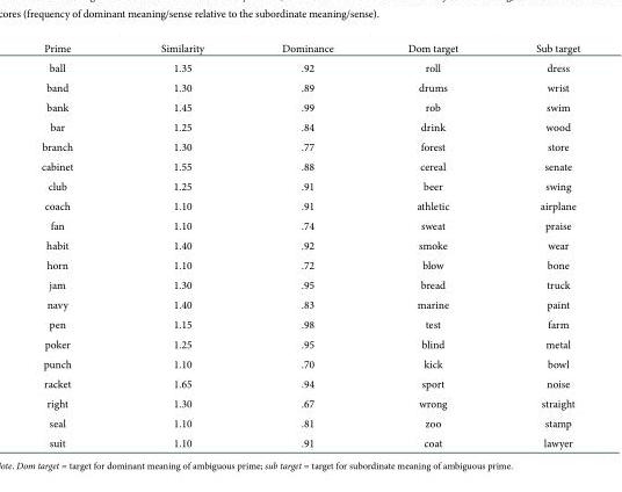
<table><thead><tr><td>Prime</td><td>Similarity</td><td>Dominance</td><td>Dom target</td><td>Sub target</td></tr></thead><tbody><tr><td>ball</td><td>1.35</td><td>.92</td><td>roll</td><td>dress</td></tr><tr><td>band</td><td>1.30</td><td>.89</td><td>drums</td><td>wrist</td></tr><tr><td>bank</td><td>1.45</td><td>.99</td><td>rob</td><td>swim</td></tr><tr><td>bar</td><td>1.25</td><td>.84</td><td>drink</td><td>wood</td></tr><tr><td>branch</td><td>1.30</td><td>.77</td><td>forest</td><td>store</td></tr><tr><td>cabinet</td><td>1.55</td><td>.88</td><td>cereal</td><td>senate</td></tr><tr><td>club</td><td>1.25</td><td>.91</td><td>beer</td><td>swing</td></tr><tr><td>coach</td><td>1.10</td><td>.91</td><td>athletic</td><td>airplane</td></tr><tr><td>fan</td><td>1.10</td><td>.74</td><td>sweat</td><td>praise</td></tr><tr><td>habit</td><td>1.40</td><td>.92</td><td>smoke</td><td>wear</td></tr><tr><td>horn</td><td>1.10</td><td>.72</td><td>blow</td><td>bone</td></tr><tr><td>jam</td><td>1.30</td><td>.95</td><td>bread</td><td>truck</td></tr><tr><td>navy</td><td>1.40</td><td>.83</td><td>marine</td><td>paint</td></tr><tr><td>pen</td><td>1.15</td><td>.98</td><td>test</td><td>farm</td></tr><tr><td>poker</td><td>1.25</td><td>.95</td><td>blind</td><td>metal</td></tr><tr><td>punch</td><td>1.10</td><td>.70</td><td>kick</td><td>bowl</td></tr><tr><td>racket</td><td>1.65</td><td>.94</td><td>sport</td><td>noise</td></tr><tr><td>right</td><td>1.30</td><td>.67</td><td>wrong</td><td>straight</td></tr><tr><td>seal</td><td>1.10</td><td>.81</td><td>zoo</td><td>stamp</td></tr><tr><td>suit</td><td>1.10</td><td>.91</td><td>coat</td><td>lawyer</td></tr></tbody></table>